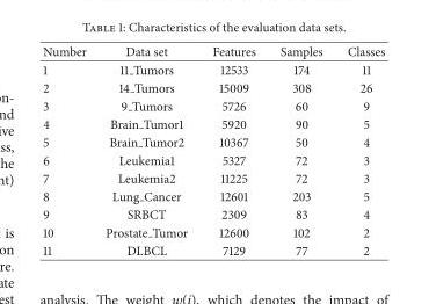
<table><thead><tr><td>Number</td><td>Data set</td><td>Features</td><td>Samples</td><td>Classes</td></tr></thead><tbody><tr><td>1</td><td>11 Tumors</td><td>12533</td><td>174</td><td>11</td></tr><tr><td>2</td><td>14 Tumors</td><td>15009</td><td>308</td><td>26</td></tr><tr><td>3</td><td>9 Tumors</td><td>5726</td><td>60</td><td>9</td></tr><tr><td>4</td><td>Brain Tumor1</td><td>5920</td><td>90</td><td>5</td></tr><tr><td>5</td><td>Brain Tumor2</td><td>10367</td><td>50</td><td>4</td></tr><tr><td>6</td><td>Leukemia1</td><td>5327</td><td>72</td><td>3</td></tr><tr><td>7</td><td>Leukemia2</td><td>11225</td><td>72</td><td>3</td></tr><tr><td>8</td><td>Lung Cancer</td><td>12601</td><td>203</td><td>5</td></tr><tr><td>9</td><td>SRBCT</td><td>2309</td><td>83</td><td>4</td></tr><tr><td>10</td><td>Prostate Tumor</td><td>12600</td><td>102</td><td>2</td></tr><tr><td>11</td><td>DLBCL</td><td>7129</td><td>77</td><td>2</td></tr></tbody></table>